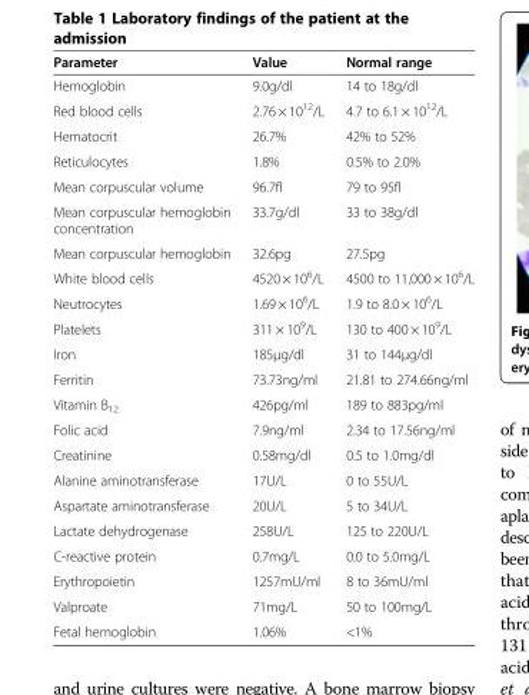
<table><thead><tr><td>Parameter</td><td>Value</td><td>Normal range</td></tr></thead><tbody><tr><td>Hemoglobin</td><td>9.0g/dl</td><td>14 to 18g/dl</td></tr><tr><td>Red blood cells</td><td>2.76 × 10<sup>12</sup>/L</td><td>4.7 to 6.1 × 10<sup>12</sup>/L</td></tr><tr><td>Hematocrit</td><td>26.7%</td><td>42% to 52%</td></tr><tr><td>Reticulocytes</td><td>1.8%</td><td>0.5% to 2.0%</td></tr><tr><td>Mean corpuscular volume</td><td>96.7fl</td><td>79 to 95fl</td></tr><tr><td>Mean corpuscular hemoglobin concentration</td><td>33.7g/dl</td><td>33 to 38g/dl</td></tr><tr><td>Mean corpuscular hemoglobin</td><td>32.6pg</td><td>27.5pg</td></tr><tr><td>White blood cells</td><td>4520 × 10<sup>6</sup>/L</td><td>4500 to 11,000 × 10<sup>6</sup>/L</td></tr><tr><td>Neutrocytes</td><td>1.69 × 10<sup>6</sup>/L</td><td>1.9 to 8.0 × 10<sup>6</sup>/L</td></tr><tr><td>Platelets</td><td>311 × 10<sup>9</sup>/L</td><td>130 to 400 × 10<sup>9</sup>/L</td></tr><tr><td>Iron</td><td>185μg/dl</td><td>31 to 144μg/dl</td></tr><tr><td>Ferritin</td><td>73.73ng/ml</td><td>21.81 to 274.66ng/ml</td></tr><tr><td>Vitamin B<sub>12</sub></td><td>426pg/ml</td><td>189 to 883pg/ml</td></tr><tr><td>Folic acid</td><td>7.9ng/ml</td><td>2.34 to 17.56ng/ml</td></tr><tr><td>Creatinine</td><td>0.58mg/dl</td><td>0.5 to 1.0mg/dl</td></tr><tr><td>Alanine aminotransferase</td><td>17U/L</td><td>0 to 55U/L</td></tr><tr><td>Aspartate aminotransferase</td><td>20U/L</td><td>5 to 34U/L</td></tr><tr><td>Lactate dehydrogenase</td><td>258U/L</td><td>125 to 220U/L</td></tr><tr><td>C-reactive protein</td><td>0.7mg/L</td><td>0.0 to 5.0mg/L</td></tr><tr><td>Erythropoietin</td><td>1257mU/ml</td><td>8 to 36mU/ml</td></tr><tr><td>Valproate</td><td>71mg/L</td><td>50 to 100mg/L</td></tr><tr><td>Fetal hemoglobin</td><td>1.06%</td><td>&lt;1%</td></tr></tbody></table>